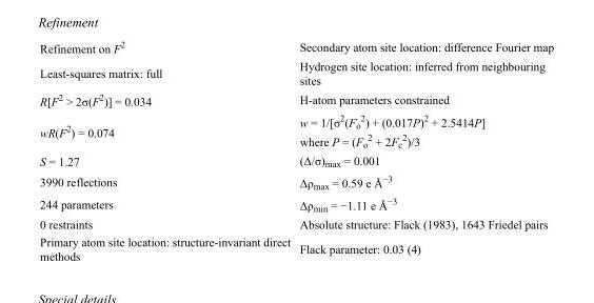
<table><tbody><tr><td>Refinement on F<sup>2</sup></td><td>Secondary atom site location: difference Fourier map</td></tr><tr><td>Least-squares matrix: full</td><td>Hydrogen site location: inferred from neighbouring sites</td></tr><tr><td>R[F<sup>2</sup> &gt; 2σ(F<sup>2</sup>)] = 0.034</td><td>H-atom parameters constrained</td></tr><tr><td>wR(F<sup>2</sup>) = 0.074</td><td>w = 1/[σ<sup>2</sup>(F<sub>o</sub> <sup>2</sup>) + (0.017P)<sup>2</sup> + 2.5414P] where P = (F<sub>o</sub> <sup>2</sup> + 2F<sub>c</sub> <sup>2</sup>)/3</td></tr><tr><td>S = 1.27</td><td>(Δ/σ)<sub>max</sub> = 0.001</td></tr><tr><td>3990 reflections</td><td>Δρ<sub>max</sub> = 0.59 e Å<sup>−3</sup></td></tr><tr><td>244 parameters</td><td>Δρ<sub>min</sub> = −1.11 e Å<sup>−3</sup></td></tr><tr><td>0 restraints</td><td>Absolute structure: Flack (1983), 1643 Friedel pairs</td></tr><tr><td>Primary atom site location: structure-invariant direct methods</td><td>Flack parameter: 0.03 (4)</td></tr></tbody></table>